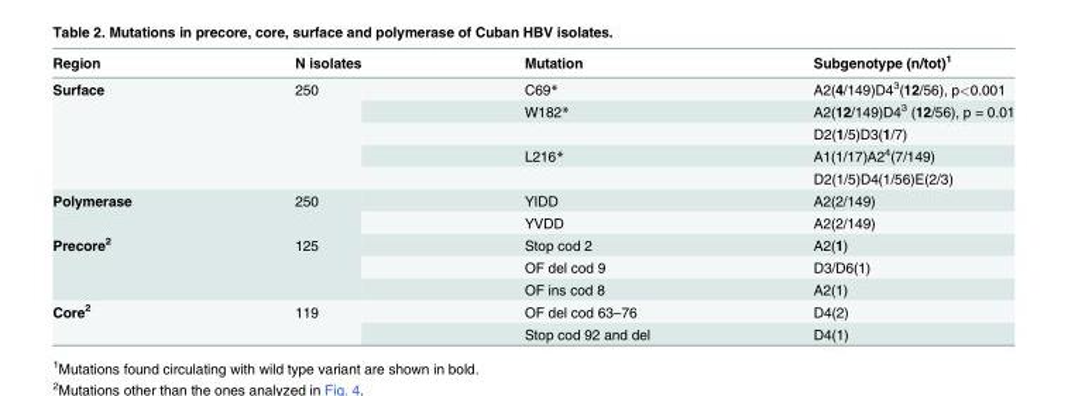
<table><thead><tr><td>Region</td><td>N isolates</td><td>Mutation</td><td>Subgenotype (n/tot)<sup>1</sup></td></tr></thead><tbody><tr><td rowspan="5">Surface</td><td rowspan="5">250</td><td>C69*</td><td>A2(4/149)D4<sup>3</sup>(12/56), p&lt;0.001</td></tr><tr><td>W182*</td><td>A2(12/149)D4<sup>3</sup> (12/56), p = 0.01</td></tr><tr><td></td><td>D2(1/5)D3(1/7)</td></tr><tr><td>L216*</td><td>A1(1/17)A2<sup>4</sup>(7/149)</td></tr><tr><td></td><td>D2(1/5)D4(1/56)E(2/3)</td></tr><tr><td rowspan="2">Polymerase</td><td rowspan="2">250</td><td>YIDD</td><td>A2(2/149)</td></tr><tr><td>YVDD</td><td>A2(2/149)</td></tr><tr><td rowspan="3">Precore<sup>2</sup></td><td rowspan="3">125</td><td>Stop cod 2</td><td>A2(1)</td></tr><tr><td>OF del cod 9</td><td>D3/D6(1)</td></tr><tr><td>OF ins cod 8</td><td>A2(1)</td></tr><tr><td rowspan="2">Core<sup>2</sup></td><td rowspan="2">119</td><td>OF del cod 63–76</td><td>D4(2)</td></tr><tr><td>Stop cod 92 and del</td><td>D4(1)</td></tr></tbody></table>